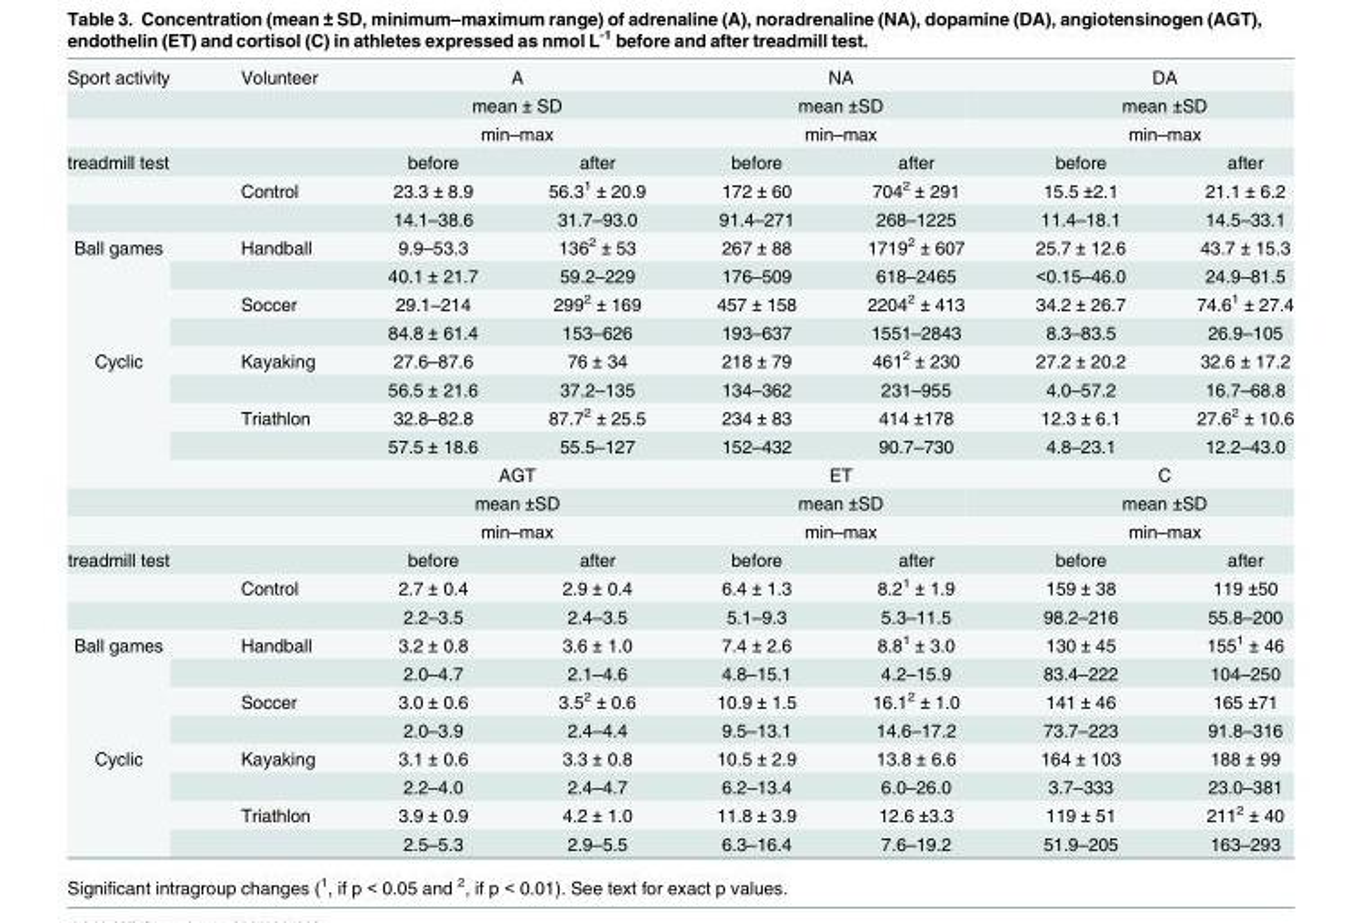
<table><tbody><tr><td rowspan="3">Sport activity</td><td>Volunteer</td><td colspan="2">A</td><td colspan="2">NA</td><td colspan="2">DA</td></tr><tr><td></td><td colspan="2">mean ± SD</td><td colspan="2">mean ±SD</td><td colspan="2">mean ±SD</td></tr><tr><td></td><td colspan="2">min–max</td><td colspan="2">min–max</td><td colspan="2">min–max</td></tr><tr><td rowspan="3">treadmill test</td><td></td><td>before</td><td>after</td><td>before</td><td>after</td><td>before</td><td>after</td></tr><tr><td>Control</td><td>23.3 ± 8.9</td><td>56.3<sup>1</sup> ± 20.9</td><td>172 ± 60</td><td>704<sup>2</sup> ± 291</td><td>15.5 ±2.1</td><td>21.1 ± 6.2</td></tr><tr><td></td><td>14.1–38.6</td><td>31.7–93.0</td><td>91.4–271</td><td>268–1225</td><td>11.4–18.1</td><td>14.5–33.1</td></tr><tr><td rowspan="4">Ball games</td><td>Handball</td><td>9.9–53.3</td><td>136<sup>2</sup> ± 53</td><td>267 ± 88</td><td>1719<sup>2</sup> ± 607</td><td>25.7 ± 12.6</td><td>43.7 ± 15.3</td></tr><tr><td></td><td>40.1 ± 21.7</td><td>59.2–229</td><td>176–509</td><td>618–2465</td><td>&lt;0.15–46.0</td><td>24.9–81.5</td></tr><tr><td>Soccer</td><td>29.1–214</td><td>299<sup>2</sup> ± 169</td><td>457 ± 158</td><td>2204<sup>2</sup> ± 413</td><td>34.2 ± 26.7</td><td>74.6<sup>1</sup> ± 27.4</td></tr><tr><td></td><td>84.8 ± 61.4</td><td>153–626</td><td>193–637</td><td>1551–2843</td><td>8.3–83.5</td><td>26.9–105</td></tr><tr><td rowspan="7">Cyclic</td><td>Kayaking</td><td>27.6–87.6</td><td>76 ± 34</td><td>218 ± 79</td><td>461<sup>2</sup> ± 230</td><td>27.2 ± 20.2</td><td>32.6 ± 17.2</td></tr><tr><td></td><td>56.5 ± 21.6</td><td>37.2–135</td><td>134–362</td><td>231–955</td><td>4.0–57.2</td><td>16.7–68.8</td></tr><tr><td>Triathlon</td><td>32.8–82.8</td><td>87.7<sup>2</sup> ± 25.5</td><td>234 ± 83</td><td>414 ±178</td><td>12.3 ± 6.1</td><td>27.6<sup>2</sup> ± 10.6</td></tr><tr><td></td><td>57.5 ± 18.6</td><td>55.5–127</td><td>152–432</td><td>90.7–730</td><td>4.8–23.1</td><td>12.2–43.0</td></tr><tr><td></td><td colspan="2">AGT</td><td colspan="2">ET</td><td colspan="2">C</td></tr><tr><td></td><td colspan="2">mean ±SD</td><td colspan="2">mean ±SD</td><td colspan="2">mean ±SD</td></tr><tr><td></td><td colspan="2">min–max</td><td colspan="2">min–max</td><td colspan="2">min–max</td></tr><tr><td rowspan="3">treadmill test</td><td></td><td>before</td><td>after</td><td>before</td><td>after</td><td>before</td><td>after</td></tr><tr><td>Control</td><td>2.7 ± 0.4</td><td>2.9 ± 0.4</td><td>6.4 ± 1.3</td><td>8.2<sup>1</sup> ± 1.9</td><td>159 ± 38</td><td>119 ±50</td></tr><tr><td></td><td>2.2–3.5</td><td>2.4–3.5</td><td>5.1–9.3</td><td>5.3–11.5</td><td>98.2–216</td><td>55.8–200</td></tr><tr><td rowspan="4">Ball games</td><td>Handball</td><td>3.2 ± 0.8</td><td>3.6 ± 1.0</td><td>7.4 ± 2.6</td><td>8.8<sup>1</sup> ± 3.0</td><td>130 ± 45</td><td>155<sup>1</sup> ± 46</td></tr><tr><td></td><td>2.0–4.7</td><td>2.1–4.6</td><td>4.8–15.1</td><td>4.2–15.9</td><td>83.4–222</td><td>104–250</td></tr><tr><td>Soccer</td><td>3.0 ± 0.6</td><td>3.5<sup>2</sup> ± 0.6</td><td>10.9 ± 1.5</td><td>16.1<sup>2</sup> ± 1.0</td><td>141 ± 46</td><td>165 ±71</td></tr><tr><td></td><td>2.0–3.9</td><td>2.4–4.4</td><td>9.5–13.1</td><td>14.6–17.2</td><td>73.7–223</td><td>91.8–316</td></tr><tr><td rowspan="4">Cyclic</td><td>Kayaking</td><td>3.1 ± 0.6</td><td>3.3 ± 0.8</td><td>10.5 ± 2.9</td><td>13.8 ± 6.6</td><td>164 ± 103</td><td>188 ± 99</td></tr><tr><td></td><td>2.2–4.0</td><td>2.4–4.7</td><td>6.2–13.4</td><td>6.0–26.0</td><td>3.7–333</td><td>23.0–381</td></tr><tr><td>Triathlon</td><td>3.9 ± 0.9</td><td>4.2 ± 1.0</td><td>11.8 ± 3.9</td><td>12.6 ±3.3</td><td>119 ± 51</td><td>211<sup>2</sup> ± 40</td></tr><tr><td></td><td>2.5–5.3</td><td>2.9–5.5</td><td>6.3–16.4</td><td>7.6–19.2</td><td>51.9–205</td><td>163–293</td></tr></tbody></table>